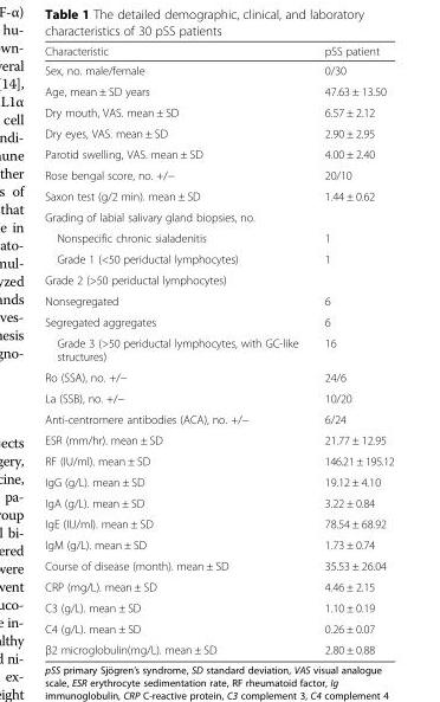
<table><thead><tr><td>Characteristic</td><td>pSS patient</td></tr></thead><tbody><tr><td>Sex, no. male/female</td><td>0/30</td></tr><tr><td>Age, mean ± SD years</td><td>47.63 ± 13.50</td></tr><tr><td>Dry mouth, VAS. mean ± SD</td><td>6.57 ± 2.12</td></tr><tr><td>Dry eyes, VAS. mean ± SD</td><td>2.90 ± 2.95</td></tr><tr><td>Parotid swelling, VAS. mean ± SD</td><td>4.00 ± 2.40</td></tr><tr><td>Rose bengal score, no. +/−</td><td>20/10</td></tr><tr><td>Saxon test (g/2 min). mean ± SD</td><td>1.44 ± 0.62</td></tr><tr><td colspan="2">Grading of labial salivary gland biopsies, no.</td></tr><tr><td>Nonspecific chronic sialadenitis</td><td>1</td></tr><tr><td>Grade 1 (&lt;50 periductal lymphocytes)</td><td>1</td></tr><tr><td colspan="2">Grade 2 (&gt;50 periductal lymphocytes)</td></tr><tr><td>Nonsegregated</td><td>6</td></tr><tr><td>Segregated aggregates</td><td>6</td></tr><tr><td>Grade 3 (&gt;50 periductal lymphocytes, with GC-like structures)</td><td>16</td></tr><tr><td>Ro (SSA), no. +/−</td><td>24/6</td></tr><tr><td>La (SSB), no. +/−</td><td>10/20</td></tr><tr><td>Anti-centromere antibodies (ACA), no. +/−</td><td>6/24</td></tr><tr><td>ESR (mm/hr). mean ± SD</td><td>21.77 ± 12.95</td></tr><tr><td>RF (IU/ml). mean ± SD</td><td>146.21 ± 195.12</td></tr><tr><td>IgG (g/L). mean ± SD</td><td>19.12 ± 4.10</td></tr><tr><td>IgA (g/L). mean ± SD</td><td>3.22 ± 0.84</td></tr><tr><td>IgE (IU/ml). mean ± SD</td><td>78.54 ± 68.92</td></tr><tr><td>IgM (g/L). mean ± SD</td><td>1.73 ± 0.74</td></tr><tr><td>Course of disease (month). mean ± SD</td><td>35.53 ± 26.04</td></tr><tr><td>CRP (mg/L). mean ± SD</td><td>4.46 ± 2.15</td></tr><tr><td>C3 (g/L). mean ± SD</td><td>1.10 ± 0.19</td></tr><tr><td>C4 (g/L). mean ± SD</td><td>0.26 ± 0.07</td></tr><tr><td>β2 microglobulin(mg/L). mean ± SD</td><td>2.80 ± 0.88</td></tr></tbody></table>